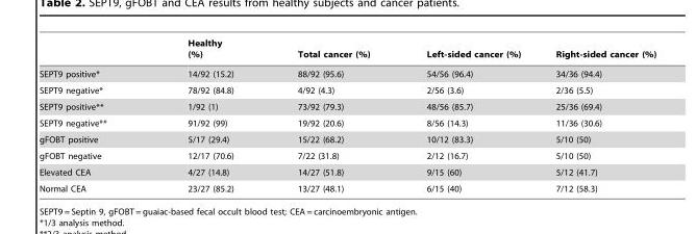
<table><thead><tr><td></td><td>Healthy (%)</td><td>Total cancer (%)</td><td>Left-sided cancer (%)</td><td>Right-sided cancer (%)</td></tr></thead><tbody><tr><td>SEPT9 positive*</td><td>14/92 (15.2)</td><td>88/92 (95.6)</td><td>54/56 (96.4)</td><td>34/36 (94.4)</td></tr><tr><td>SEPT9 negative*</td><td>78/92 (84.8)</td><td>4/92 (4.3)</td><td>2/56 (3.6)</td><td>2/36 (5.5)</td></tr><tr><td>SEPT9 positive**</td><td>1/92 (1)</td><td>73/92 (79.3)</td><td>48/56 (85.7)</td><td>25/36 (69.4)</td></tr><tr><td>SEPT9 negative**</td><td>91/92 (99)</td><td>19/92 (20.6)</td><td>8/56 (14.3)</td><td>11/36 (30.6)</td></tr><tr><td>gFOBT positive</td><td>5/17 (29.4)</td><td>15/22 (68.2)</td><td>10/12 (83.3)</td><td>5/10 (50)</td></tr><tr><td>gFOBT negative</td><td>12/17 (70.6)</td><td>7/22 (31.8)</td><td>2/12 (16.7)</td><td>5/10 (50)</td></tr><tr><td>Elevated CEA</td><td>4/27 (14.8)</td><td>14/27 (51.8)</td><td>9/15 (60)</td><td>5/12 (41.7)</td></tr><tr><td>Normal CEA</td><td>23/27 (85.2)</td><td>13/27 (48.1)</td><td>6/15 (40)</td><td>7/12 (58.3)</td></tr></tbody></table>